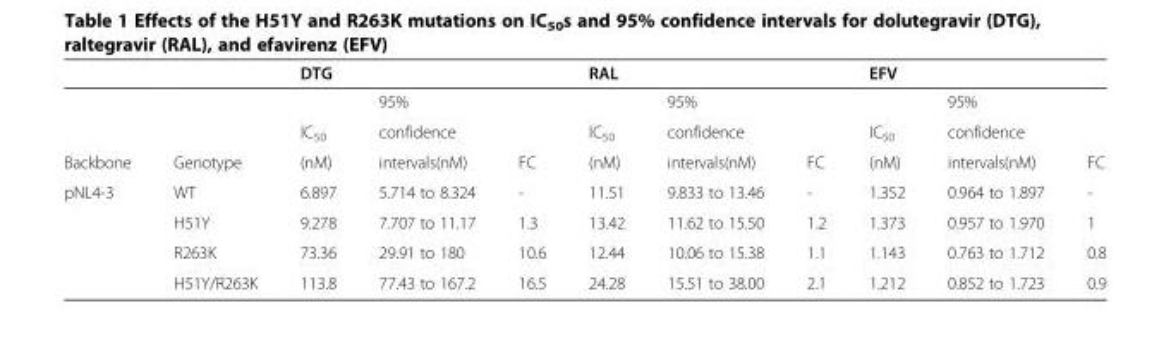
<table><thead><tr><td rowspan="2"></td><td rowspan="2"></td><td colspan="3">DTG</td><td colspan="3">RAL</td><td colspan="3">EFV</td></tr><tr><td></td><td>95%</td><td></td><td></td><td>95%</td><td></td><td></td><td>95%</td><td></td></tr></thead><tbody><tr><td></td><td></td><td>IC<sub>50</sub></td><td>confidence</td><td></td><td>IC<sub>50</sub></td><td>confidence</td><td></td><td>IC<sub>50</sub></td><td>confidence</td><td></td></tr><tr><td>Backbone</td><td>Genotype</td><td>(nM)</td><td>intervals(nM)</td><td>FC</td><td>(nM)</td><td>intervals(nM)</td><td>FC</td><td>(nM)</td><td>intervals(nM)</td><td>FC</td></tr><tr><td rowspan="4">pNL4-3</td><td>WT</td><td>6.897</td><td>5.714 to 8.324</td><td>-</td><td>11.51</td><td>9.833 to 13.46</td><td>-</td><td>1.352</td><td>0.964 to 1.897</td><td>-</td></tr><tr><td>H51Y</td><td>9.278</td><td>7.707 to 11.17</td><td>1.3</td><td>13.42</td><td>11.62 to 15.50</td><td>1.2</td><td>1.373</td><td>0.957 to 1.970</td><td>1</td></tr><tr><td>R263K</td><td>73.36</td><td>29.91 to 180</td><td>10.6</td><td>12.44</td><td>10.06 to 15.38</td><td>1.1</td><td>1.143</td><td>0.763 to 1.712</td><td>0.8</td></tr><tr><td>H51Y/R263K</td><td>113.8</td><td>77.43 to 167.2</td><td>16.5</td><td>24.28</td><td>15.51 to 38.00</td><td>2.1</td><td>1.212</td><td>0.852 to 1.723</td><td>0.9</td></tr></tbody></table>